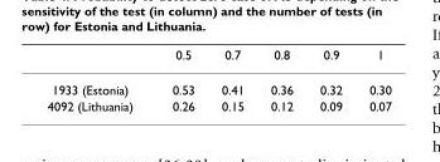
<table><thead><tr><td></td><td>0.5</td><td>0.7</td><td>0.8</td><td>0.9</td><td>1</td></tr></thead><tbody><tr><td>1933 (Estonia)</td><td>0.53</td><td>0.41</td><td>0.36</td><td>0.32</td><td>0.30</td></tr><tr><td>4092 (Lithuania)</td><td>0.26</td><td>0.15</td><td>0.12</td><td>0.09</td><td>0.07</td></tr></tbody></table>